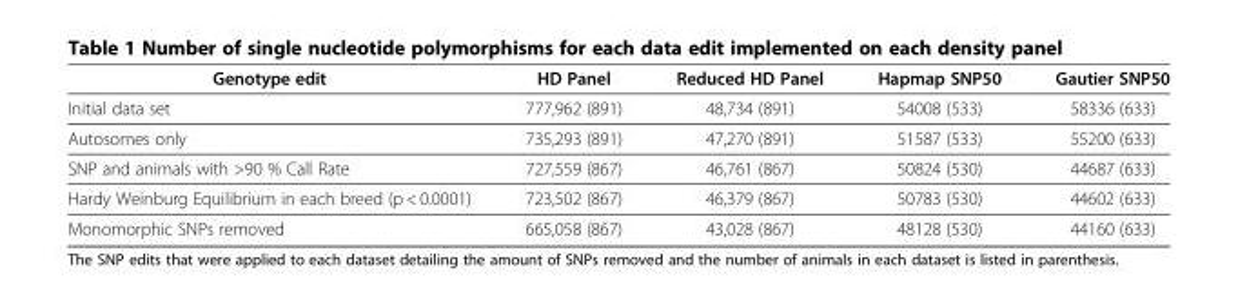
<table><thead><tr><td>Genotype edit</td><td>HD Panel</td><td>Reduced HD Panel</td><td>Hapmap SNP50</td><td>Gautier SNP50</td></tr></thead><tbody><tr><td>Initial data set</td><td>777,962 (891)</td><td>48,734 (891)</td><td>54008 (533)</td><td>58336 (633)</td></tr><tr><td>Autosomes only</td><td>735,293 (891)</td><td>47,270 (891)</td><td>51587 (533)</td><td>55200 (633)</td></tr><tr><td>SNP and animals with &gt;90 % Call Rate</td><td>727,559 (867)</td><td>46,761 (867)</td><td>50824 (530)</td><td>44687 (633)</td></tr><tr><td>Hardy Weinburg Equilibrium in each breed (p &lt; 0.0001)</td><td>723,502 (867)</td><td>46,379 (867)</td><td>50783 (530)</td><td>44602 (633)</td></tr><tr><td>Monomorphic SNPs removed</td><td>665,058 (867)</td><td>43,028 (867)</td><td>48128 (530)</td><td>44160 (633)</td></tr></tbody></table>